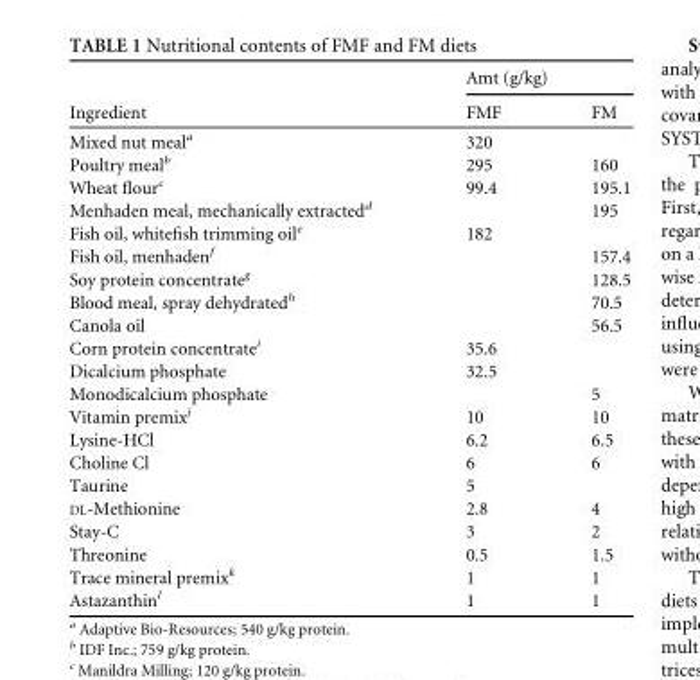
<table><thead><tr><td rowspan="2">Ingredient</td><td colspan="2">Amt (g/kg)</td></tr><tr><td>FMF</td><td>FM</td></tr></thead><tbody><tr><td>Mixed nut meal<sup>a</sup></td><td>320</td><td></td></tr><tr><td>Poultry meal<sup>b</sup></td><td>295</td><td>160</td></tr><tr><td>Wheat flour<sup>c</sup></td><td>99.4</td><td>195.1</td></tr><tr><td>Menhaden meal, mechanically extracted<sup>d</sup></td><td></td><td>195</td></tr><tr><td>Fish oil, whitefish trimming oil<sup>e</sup></td><td>182</td><td></td></tr><tr><td>Fish oil, menhaden<sup>f</sup></td><td></td><td>157.4</td></tr><tr><td>Soy protein concentrate<sup>g</sup></td><td></td><td>128.5</td></tr><tr><td>Blood meal, spray dehydrated<sup>h</sup></td><td></td><td>70.5</td></tr><tr><td>Canola oil</td><td></td><td>56.5</td></tr><tr><td>Corn protein concentrate<sup>i</sup></td><td>35.6</td><td></td></tr><tr><td>Dicalcium phosphate</td><td>32.5</td><td></td></tr><tr><td>Monodicalcium phosphate</td><td></td><td>5</td></tr><tr><td>Vitamin premix<sup>j</sup></td><td>10</td><td>10</td></tr><tr><td>Lysine-HCl</td><td>6.2</td><td>6.5</td></tr><tr><td>Choline Cl</td><td>6</td><td>6</td></tr><tr><td>Taurine</td><td>5</td><td></td></tr><tr><td>DL-Methionine</td><td>2.8</td><td>4</td></tr><tr><td>Stay-C</td><td>3</td><td>2</td></tr><tr><td>Threonine</td><td>0.5</td><td>1.5</td></tr><tr><td>Trace mineral premix<sup>k</sup></td><td>1</td><td>1</td></tr><tr><td>Astazanthin<sup>l</sup></td><td>1</td><td>1</td></tr></tbody></table>